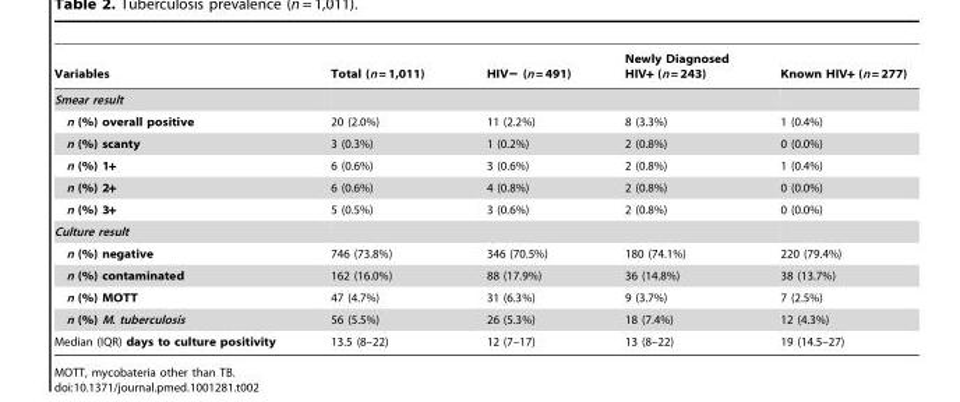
<table><thead><tr><td>Variables</td><td>Total (n = 1,011)</td><td>HIV− (n = 491)</td><td>Newly Diagnosed HIV+ (n = 243)</td><td>Known HIV+ (n = 277)</td></tr></thead><tbody><tr><td colspan="5">Smear result</td></tr><tr><td>n (%) overall positive</td><td>20 (2.0%)</td><td>11 (2.2%)</td><td>8 (3.3%)</td><td>1 (0.4%)</td></tr><tr><td>n (%) scanty</td><td>3 (0.3%)</td><td>1 (0.2%)</td><td>2 (0.8%)</td><td>0 (0.0%)</td></tr><tr><td>n (%) 1+</td><td>6 (0.6%)</td><td>3 (0.6%)</td><td>2 (0.8%)</td><td>1 (0.4%)</td></tr><tr><td>n (%) 2+</td><td>6 (0.6%)</td><td>4 (0.8%)</td><td>2 (0.8%)</td><td>0 (0.0%)</td></tr><tr><td>n (%) 3+</td><td>5 (0.5%)</td><td>3 (0.6%)</td><td>2 (0.8%)</td><td>0 (0.0%)</td></tr><tr><td colspan="5">Culture result</td></tr><tr><td>n (%) negative</td><td>746 (73.8%)</td><td>346 (70.5%)</td><td>180 (74.1%)</td><td>220 (79.4%)</td></tr><tr><td>n (%) contaminated</td><td>162 (16.0%)</td><td>88 (17.9%)</td><td>36 (14.8%)</td><td>38 (13.7%)</td></tr><tr><td>n (%) MOTT</td><td>47 (4.7%)</td><td>31 (6.3%)</td><td>9 (3.7%)</td><td>7 (2.5%)</td></tr><tr><td>n (%) M. tuberculosis</td><td>56 (5.5%)</td><td>26 (5.3%)</td><td>18 (7.4%)</td><td>12 (4.3%)</td></tr><tr><td>Median (IQR) days to culture positivity</td><td>13.5 (8–22)</td><td>12 (7–17)</td><td>13 (8–22)</td><td>19 (14.5–27)</td></tr></tbody></table>